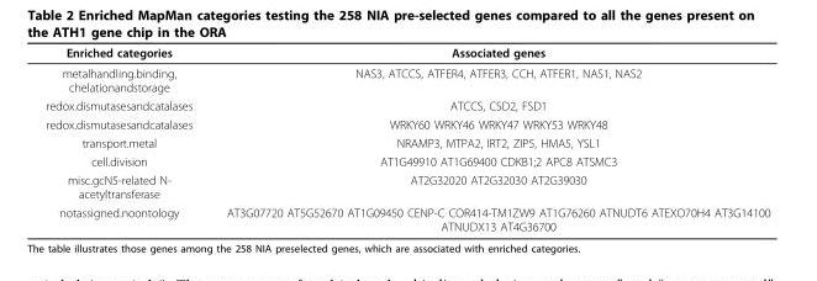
<table><thead><tr><td>Enriched categories</td><td>Associated genes</td></tr></thead><tbody><tr><td>metalhandling.binding, chelationandstorage</td><td>NAS3, ATCCS, ATFER4, ATFER3, CCH, ATFER1, NAS1, NAS2</td></tr><tr><td>redox.dismutasesandcatalases</td><td>ATCCS, CSD2, FSD1</td></tr><tr><td>redox.dismutasesandcatalases</td><td>WRKY60 WRKY46 WRKY47 WRKY53 WRKY48</td></tr><tr><td>transport.metal</td><td>NRAMP3, MTPA2, IRT2, ZIP5, HMA5, YSL1</td></tr><tr><td>cell.division</td><td>AT1G49910 AT1G69400 CDKB1;2 APC8 ATSMC3</td></tr><tr><td>misc.gcN5-related N- acetyltransferase</td><td>AT2G32020 AT2G32030 AT2G39030</td></tr><tr><td>notassigned.noontology</td><td>AT3G07720 AT5G52670 AT1G09450 CENP-C COR414-TM1ZW9 AT1G76260 ATNUDT6 ATEXO70H4 AT3G14100 ATNUDX13 AT4G36700</td></tr></tbody></table>